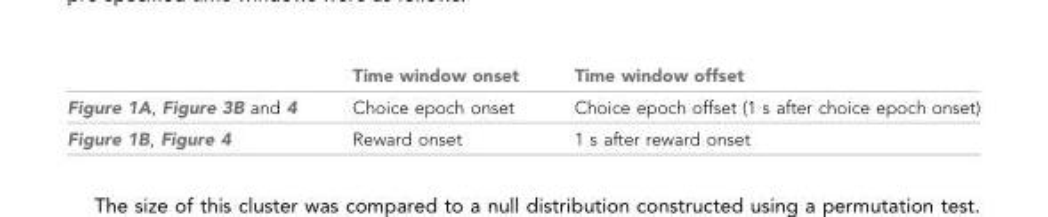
<table><thead><tr><td></td><td>Time window onset</td><td>Time window offset</td></tr></thead><tbody><tr><td>Figure 1A, Figure 3B and 4</td><td>Choice epoch onset</td><td>Choice epoch offset (1 s after choice epoch onset)</td></tr><tr><td>Figure 1B, Figure 4</td><td>Reward onset</td><td>1 s after reward onset</td></tr></tbody></table>